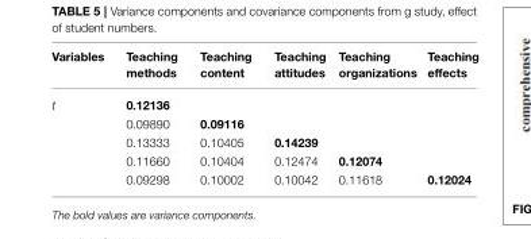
<table><thead><tr><td>Variables</td><td>Teaching methods</td><td>Teaching content</td><td>Teaching attitudes</td><td>Teaching organizations</td><td>Teaching effects</td></tr></thead><tbody><tr><td rowspan="5">t</td><td>0.12136</td><td></td><td></td><td></td><td></td></tr><tr><td>0.09890</td><td>0.09116</td><td></td><td></td><td></td></tr><tr><td>0.13333</td><td>0.10405</td><td>0.14239</td><td></td><td></td></tr><tr><td>0.11660</td><td>0.10404</td><td>0.12474</td><td>0.12074</td><td></td></tr><tr><td>0.09298</td><td>0.10002</td><td>0.10042</td><td>0.11618</td><td>0.12024</td></tr></tbody></table>